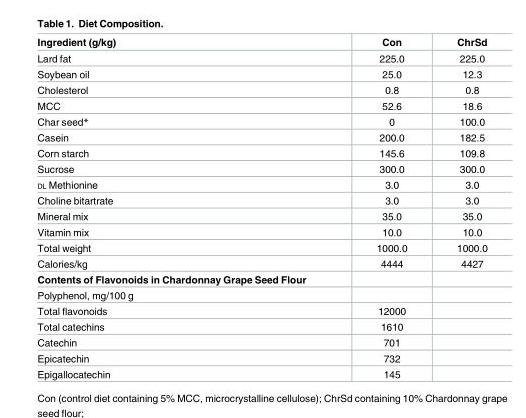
<table><thead><tr><td>Ingredient (g/kg)</td><td>Con</td><td>ChrSd</td></tr></thead><tbody><tr><td>Lard fat</td><td>225.0</td><td>225.0</td></tr><tr><td>Soybean oil</td><td>25.0</td><td>12.3</td></tr><tr><td>Cholesterol</td><td>0.8</td><td>0.8</td></tr><tr><td>MCC</td><td>52.6</td><td>18.6</td></tr><tr><td>Char seed*</td><td>0</td><td>100.0</td></tr><tr><td>Casein</td><td>200.0</td><td>182.5</td></tr><tr><td>Corn starch</td><td>145.6</td><td>109.8</td></tr><tr><td>Sucrose</td><td>300.0</td><td>300.0</td></tr><tr><td>DL Methionine</td><td>3.0</td><td>3.0</td></tr><tr><td>Choline bitartrate</td><td>3.0</td><td>3.0</td></tr><tr><td>Mineral mix</td><td>35.0</td><td>35.0</td></tr><tr><td>Vitamin mix</td><td>10.0</td><td>10.0</td></tr><tr><td>Total weight</td><td>1000.0</td><td>1000.0</td></tr><tr><td>Calories/kg</td><td>4444</td><td>4427</td></tr><tr><td colspan="3">Contents of Flavonoids in Chardonnay Grape Seed Flour</td></tr><tr><td colspan="3">Polyphenol, mg/100 g</td></tr><tr><td>Total flavonoids</td><td>12000</td><td></td></tr><tr><td>Total catechins</td><td>1610</td><td></td></tr><tr><td>Catechin</td><td>701</td><td></td></tr><tr><td>Epicatechin</td><td>732</td><td></td></tr><tr><td>Epigallocatechin</td><td>145</td><td></td></tr></tbody></table>